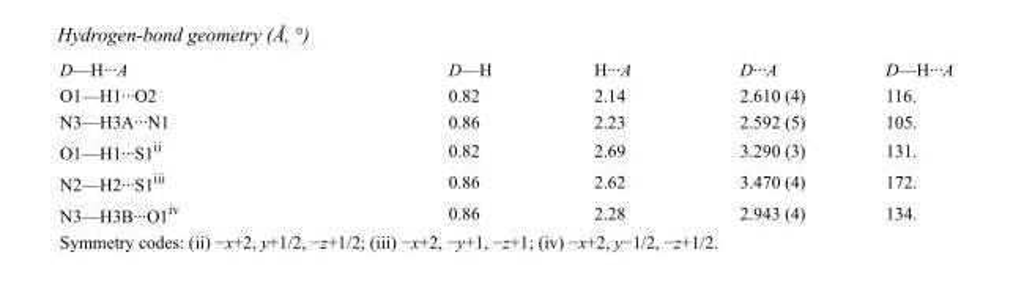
<table><tbody><tr><td>D—H···A</td><td>D—H</td><td>H···A</td><td>D···A</td><td>D—H···A</td></tr><tr><td>O1—H1···O2</td><td>0.82</td><td>2.14</td><td>2.610 (4)</td><td>116.</td></tr><tr><td>N3—H3A···N1</td><td>0.86</td><td>2.23</td><td>2.592 (5)</td><td>105.</td></tr><tr><td>O1—H1···S1<sup>ii</sup></td><td>0.82</td><td>2.69</td><td>3.290 (3)</td><td>131.</td></tr><tr><td>N2—H2···S1<sup>iii</sup></td><td>0.86</td><td>2.62</td><td>3.470 (4)</td><td>172.</td></tr><tr><td>N3—H3B···O1<sup>iv</sup></td><td>0.86</td><td>2.28</td><td>2.943 (4)</td><td>134.</td></tr></tbody></table>